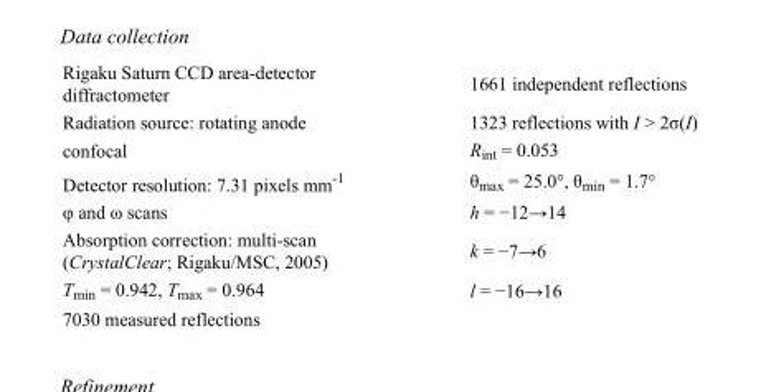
<table><tbody><tr><td>Rigaku Saturn CCD area-detector diffractometer</td><td>1661 independent reflections</td></tr><tr><td>Radiation source: rotating anode</td><td>1323 reflections with I &gt; 2σ(I)</td></tr><tr><td>confocal</td><td>R<sub>int</sub> = 0.053</td></tr><tr><td>Detector resolution: 7.31 pixels mm<sup>-1</sup></td><td>θ<sub>max</sub> = 25.0°, θ<sub>min</sub> = 1.7°</td></tr><tr><td>φ and ω scans</td><td>h = −12→14</td></tr><tr><td>Absorption correction: multi-scan (CrystalClear; Rigaku/MSC, 2005)</td><td>k = −7→6</td></tr><tr><td>T<sub>min</sub> = 0.942, T<sub>max</sub> = 0.964</td><td>l = −16→16</td></tr><tr><td>7030 measured reflections</td><td></td></tr></tbody></table>